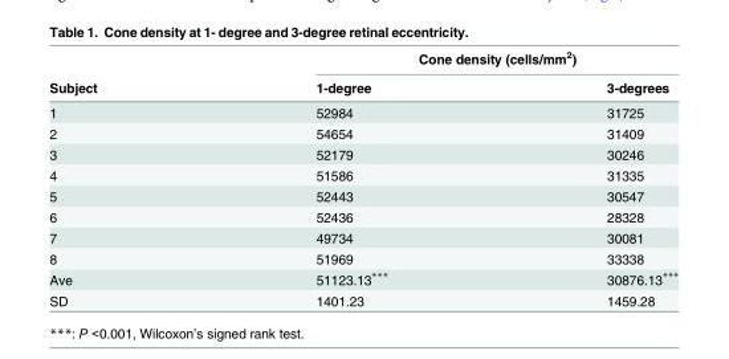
<table><thead><tr><td rowspan="2">Subject</td><td colspan="2">Cone density (cells/mm<sup>2</sup>)</td></tr><tr><td>1-degree</td><td>3-degrees</td></tr></thead><tbody><tr><td>1</td><td>52984</td><td>31725</td></tr><tr><td>2</td><td>54654</td><td>31409</td></tr><tr><td>3</td><td>52179</td><td>30246</td></tr><tr><td>4</td><td>51586</td><td>31335</td></tr><tr><td>5</td><td>52443</td><td>30547</td></tr><tr><td>6</td><td>52436</td><td>28328</td></tr><tr><td>7</td><td>49734</td><td>30081</td></tr><tr><td>8</td><td>51969</td><td>33338</td></tr><tr><td>Ave</td><td>51123.13***</td><td>30876.13***</td></tr><tr><td>SD</td><td>1401.23</td><td>1459.28</td></tr></tbody></table>